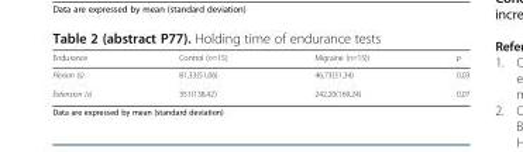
<table><thead><tr><td>Endurance</td><td>Control (n=15)</td><td>Migraine (n=15))</td><td>p</td></tr></thead><tbody><tr><td>Flexion (s)</td><td>81,33(51,06)</td><td>46,73(31,34)</td><td>0,03</td></tr><tr><td>Extension (s)</td><td>351(138,42)</td><td>242,20(169,24)</td><td>0,07</td></tr></tbody></table>